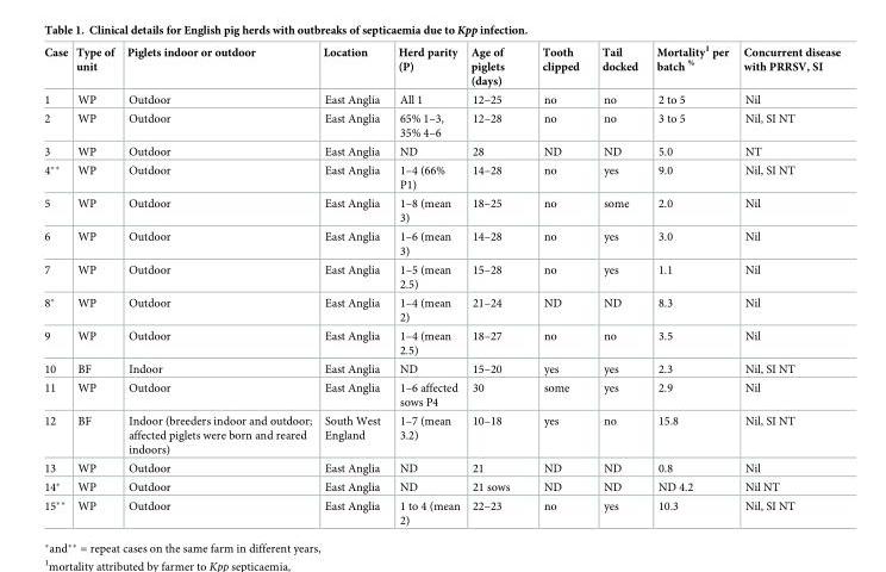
<table><thead><tr><td>Case</td><td>Type of unit</td><td>Piglets indoor or outdoor</td><td>Location</td><td>Herd parity (P)</td><td>Age of piglets (days)</td><td>Tooth clipped</td><td>Tail docked</td><td>Mortality<sup>1</sup> per batch <sup>%</sup></td><td>Concurrent disease with PRRSV, SI</td></tr></thead><tbody><tr><td>1</td><td>WP</td><td>Outdoor</td><td>East Anglia</td><td>All 1</td><td>12–25</td><td>no</td><td>no</td><td>2 to 5</td><td>Nil</td></tr><tr><td>2</td><td>WP</td><td>Outdoor</td><td>East Anglia</td><td>65% 1–3, 35% 4–6</td><td>12–28</td><td>no</td><td>no</td><td>3 to 5</td><td>Nil, SI NT</td></tr><tr><td>3</td><td>WP</td><td>Outdoor</td><td>East Anglia</td><td>ND</td><td>28</td><td>ND</td><td>ND</td><td>5.0</td><td>NT</td></tr><tr><td>4**</td><td>WP</td><td>Outdoor</td><td>East Anglia</td><td>1–4 (66% P1)</td><td>14–28</td><td>no</td><td>yes</td><td>9.0</td><td>Nil, SI NT</td></tr><tr><td>5</td><td>WP</td><td>Outdoor</td><td>East Anglia</td><td>1–8 (mean 3)</td><td>18–25</td><td>no</td><td>some</td><td>2.0</td><td>Nil</td></tr><tr><td>6</td><td>WP</td><td>Outdoor</td><td>East Anglia</td><td>1–6 (mean 3)</td><td>14–28</td><td>no</td><td>yes</td><td>3.0</td><td>Nil</td></tr><tr><td>7</td><td>WP</td><td>Outdoor</td><td>East Anglia</td><td>1–5 (mean 2.5)</td><td>15–28</td><td>no</td><td>yes</td><td>1.1</td><td>Nil</td></tr><tr><td>8*</td><td>WP</td><td>Outdoor</td><td>East Anglia</td><td>1–4 (mean 2)</td><td>21–24</td><td>ND</td><td>ND</td><td>8.3</td><td>Nil</td></tr><tr><td>9</td><td>WP</td><td>Outdoor</td><td>East Anglia</td><td>1–4 (mean 2.5)</td><td>18–27</td><td>no</td><td>no</td><td>3.5</td><td>Nil</td></tr><tr><td>10</td><td>BF</td><td>Indoor</td><td>East Anglia</td><td>ND</td><td>15–20</td><td>yes</td><td>yes</td><td>2.3</td><td>Nil, SI NT</td></tr><tr><td>11</td><td>WP</td><td>Outdoor</td><td>East Anglia</td><td>1–6 affected sows P4</td><td>30</td><td>some</td><td>yes</td><td>2.9</td><td>Nil</td></tr><tr><td>12</td><td>BF</td><td>Indoor (breeders indoor and outdoor; affected piglets were born and reared indoors)</td><td>South West England</td><td>1–7 (mean 3.2)</td><td>10–18</td><td>yes</td><td>no</td><td>15.8</td><td>Nil, SI NT</td></tr><tr><td>13</td><td>WP</td><td>Outdoor</td><td>East Anglia</td><td>ND</td><td>21</td><td>ND</td><td>ND</td><td>0.8</td><td>Nil</td></tr><tr><td>14*</td><td>WP</td><td>Outdoor</td><td>East Anglia</td><td>ND</td><td>21 sows</td><td>ND</td><td>ND</td><td>ND 4.2</td><td>Nil NT</td></tr><tr><td>15**</td><td>WP</td><td>Outdoor</td><td>East Anglia</td><td>1 to 4 (mean 2)</td><td>22–23</td><td>no</td><td>yes</td><td>10.3</td><td>Nil, SI NT</td></tr></tbody></table>